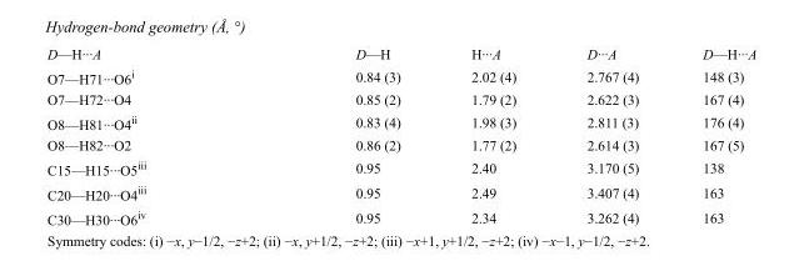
<table><tbody><tr><td>D—H···A</td><td>D—H</td><td>H···A</td><td>D···A</td><td>D—H···A</td></tr><tr><td>O7—H71···O6<sup>i</sup></td><td>0.84 (3)</td><td>2.02 (4)</td><td>2.767 (4)</td><td>148 (3)</td></tr><tr><td>O7—H72···O4</td><td>0.85 (2)</td><td>1.79 (2)</td><td>2.622 (3)</td><td>167 (4)</td></tr><tr><td>O8—H81···O4<sup>ii</sup></td><td>0.83 (4)</td><td>1.98 (3)</td><td>2.811 (3)</td><td>176 (4)</td></tr><tr><td>O8—H82···O2</td><td>0.86 (2)</td><td>1.77 (2)</td><td>2.614 (3)</td><td>167 (5)</td></tr><tr><td>C15—H15···O5<sup>iii</sup></td><td>0.95</td><td>2.40</td><td>3.170 (5)</td><td>138</td></tr><tr><td>C20—H20···O4<sup>iii</sup></td><td>0.95</td><td>2.49</td><td>3.407 (4)</td><td>163</td></tr><tr><td>C30—H30···O6<sup>iv</sup></td><td>0.95</td><td>2.34</td><td>3.262 (4)</td><td>163</td></tr></tbody></table>